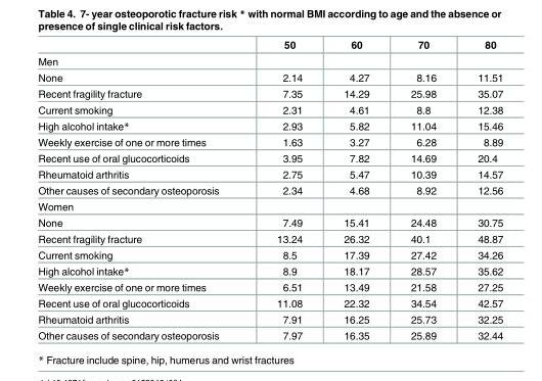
<table><thead><tr><td></td><td>50</td><td>60</td><td>70</td><td>80</td></tr></thead><tbody><tr><td colspan="5">Men</td></tr><tr><td>None</td><td>2.14</td><td>4.27</td><td>8.16</td><td>11.51</td></tr><tr><td>Recent fragility fracture</td><td>7.35</td><td>14.29</td><td>25.98</td><td>35.07</td></tr><tr><td>Current smoking</td><td>2.31</td><td>4.61</td><td>8.8</td><td>12.38</td></tr><tr><td>High alcohol intake*</td><td>2.93</td><td>5.82</td><td>11.04</td><td>15.46</td></tr><tr><td>Weekly exercise of one or more times</td><td>1.63</td><td>3.27</td><td>6.28</td><td>8.89</td></tr><tr><td>Recent use of oral glucocorticoids</td><td>3.95</td><td>7.82</td><td>14.69</td><td>20.4</td></tr><tr><td>Rheumatoid arthritis</td><td>2.75</td><td>5.47</td><td>10.39</td><td>14.57</td></tr><tr><td>Other causes of secondary osteoporosis</td><td>2.34</td><td>4.68</td><td>8.92</td><td>12.56</td></tr><tr><td colspan="5">Women</td></tr><tr><td>None</td><td>7.49</td><td>15.41</td><td>24.48</td><td>30.75</td></tr><tr><td>Recent fragility fracture</td><td>13.24</td><td>26.32</td><td>40.1</td><td>48.87</td></tr><tr><td>Current smoking</td><td>8.5</td><td>17.39</td><td>27.42</td><td>34.26</td></tr><tr><td>High alcohol intake*</td><td>8.9</td><td>18.17</td><td>28.57</td><td>35.62</td></tr><tr><td>Weekly exercise of one or more times</td><td>6.51</td><td>13.49</td><td>21.58</td><td>27.25</td></tr><tr><td>Recent use of oral glucocorticoids</td><td>11.08</td><td>22.32</td><td>34.54</td><td>42.57</td></tr><tr><td>Rheumatoid arthritis</td><td>7.91</td><td>16.25</td><td>25.73</td><td>32.25</td></tr><tr><td>Other causes of secondary osteoporosis</td><td>7.97</td><td>16.35</td><td>25.89</td><td>32.44</td></tr></tbody></table>